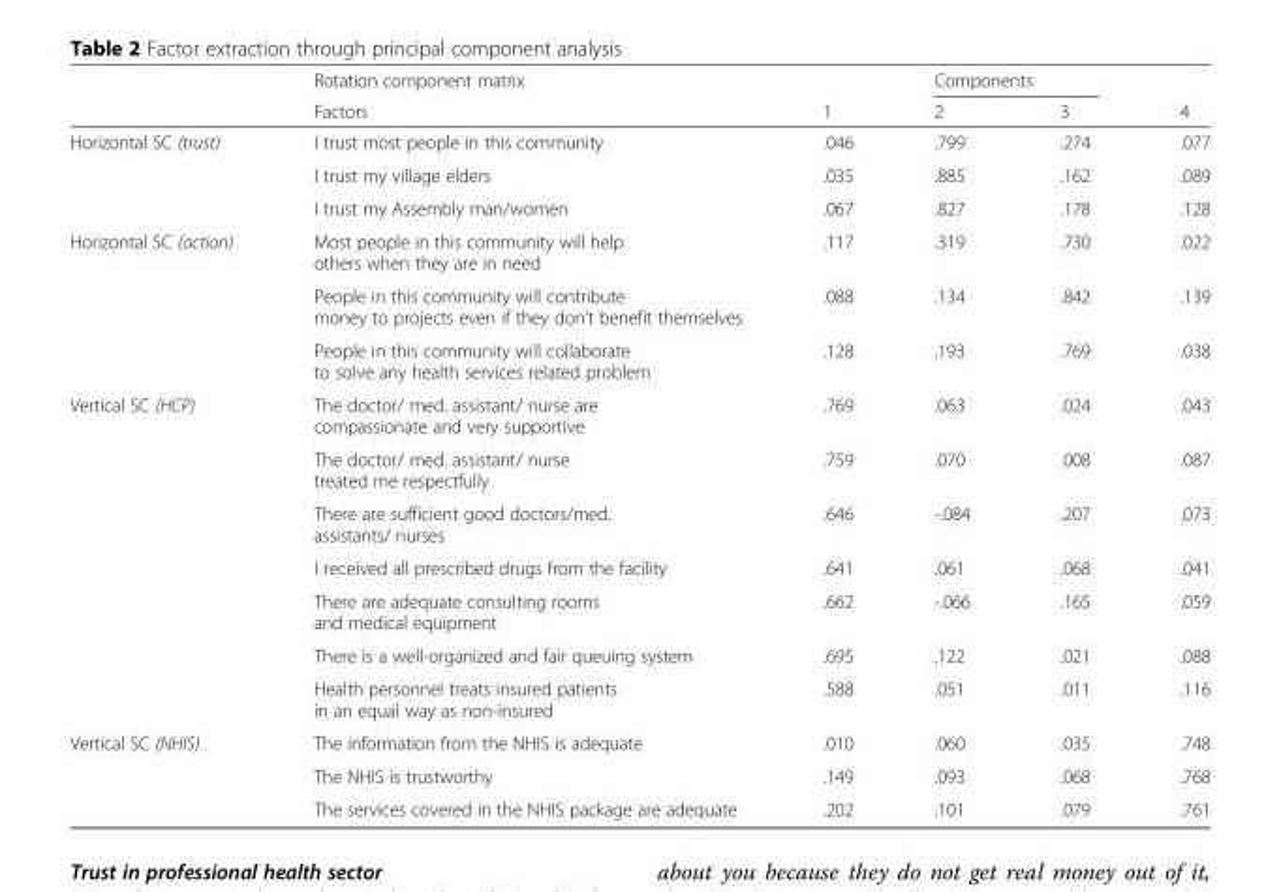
<table><thead><tr><td rowspan="2"></td><td rowspan="2">Rotation component matrix Factors</td><td rowspan="2">1</td><td colspan="2">Components</td><td rowspan="2">4</td></tr><tr><td>2</td><td>3</td></tr></thead><tbody><tr><td rowspan="3">Horizontal SC (trust)</td><td>I trust most people in this community</td><td>.046</td><td>.799</td><td>.274</td><td>.077</td></tr><tr><td>I trust my village elders</td><td>.035</td><td>.885</td><td>.162</td><td>.089</td></tr><tr><td>I trust my Assembly man/women</td><td>.067</td><td>.827</td><td>.178</td><td>.128</td></tr><tr><td rowspan="3">Horizontal SC (action)</td><td>Most people in this community will help others when they are in need</td><td>.117</td><td>.319</td><td>.730</td><td>.022</td></tr><tr><td>People in this community will contribute money to projects even if they don’t benefit themselves</td><td>.088</td><td>.134</td><td>.842</td><td>.139</td></tr><tr><td>People in this community will collaborate to solve any health services related problem</td><td>.128</td><td>.193</td><td>.769</td><td>.038</td></tr><tr><td rowspan="7">Vertical SC (HCP)</td><td>The doctor/ med. assistant/ nurse are compassionate and very supportive</td><td>.769</td><td>.063</td><td>.024</td><td>.043</td></tr><tr><td>The doctor/ med. assistant/ nurse treated me respectfully</td><td>.759</td><td>.070</td><td>.008</td><td>.087</td></tr><tr><td>There are sufficient good doctors/med. assistants/ nurses</td><td>.646</td><td>-.084</td><td>.207</td><td>.073</td></tr><tr><td>I received all prescribed drugs from the facility</td><td>.641</td><td>.061</td><td>.068</td><td>.041</td></tr><tr><td>There are adequate consulting rooms and medical equipment</td><td>.662</td><td>-.066</td><td>.165</td><td>.059</td></tr><tr><td>There is a well-organized and fair queuing system</td><td>.695</td><td>.122</td><td>.021</td><td>.088</td></tr><tr><td>Health personnel treats insured patients in an equal way as non-insured</td><td>.588</td><td>.051</td><td>.011</td><td>.116</td></tr><tr><td rowspan="3">Vertical SC (NHIS)</td><td>The information from the NHIS is adequate</td><td>.010</td><td>.060</td><td>.035</td><td>.748</td></tr><tr><td>The NHIS is trustworthy</td><td>.149</td><td>.093</td><td>.068</td><td>.768</td></tr><tr><td>The services covered in the NHIS package are adequate</td><td>.202</td><td>.101</td><td>.079</td><td>.761</td></tr></tbody></table>